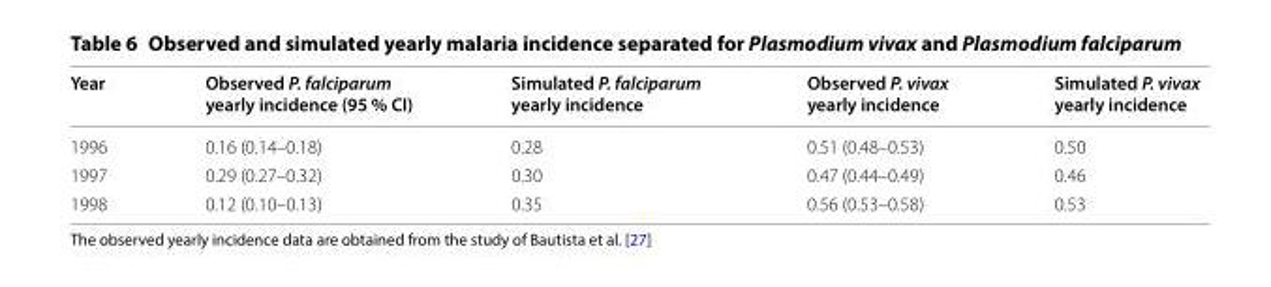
<table><thead><tr><td>Year</td><td>Observed P. falciparum yearly incidence (95 % CI)</td><td>Simulated P. falciparum yearly incidence</td><td>Observed P. vivax yearly incidence</td><td>Simulated P. vivax yearly incidence</td></tr></thead><tbody><tr><td>1996</td><td>0.16 (0.14–0.18)</td><td>0.28</td><td>0.51 (0.48–0.53)</td><td>0.50</td></tr><tr><td>1997</td><td>0.29 (0.27–0.32)</td><td>0.30</td><td>0.47 (0.44–0.49)</td><td>0.46</td></tr><tr><td>1998</td><td>0.12 (0.10–0.13)</td><td>0.35</td><td>0.56 (0.53–0.58)</td><td>0.53</td></tr></tbody></table>